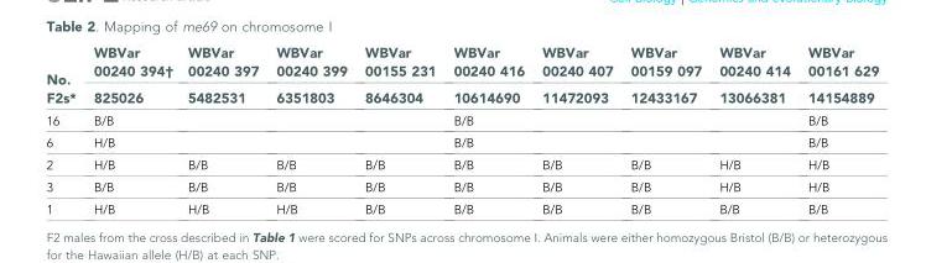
<table><thead><tr><td rowspan="2">No. F2s*</td><td rowspan="2">WBVar 00240 394† 825026</td><td rowspan="2">WBVar 00240 397 5482531</td><td rowspan="2">WBVar 00240 399 6351803</td><td rowspan="2">WBVar 00155 231 8646304</td><td rowspan="2">WBVar 00240 416 10614690</td><td rowspan="2">WBVar 00240 407 11472093</td><td rowspan="2">WBVar 00159 097 12433167</td><td rowspan="2">WBVar 00240 414 13066381</td><td rowspan="2">WBVar 00161 629 14154889</td></tr><tr></tr></thead><tbody><tr><td>16</td><td>B/B</td><td></td><td></td><td></td><td>B/B</td><td></td><td></td><td></td><td>B/B</td></tr><tr><td>6</td><td>H/B</td><td></td><td></td><td></td><td>B/B</td><td></td><td></td><td></td><td>B/B</td></tr><tr><td>2</td><td>H/B</td><td>B/B</td><td>B/B</td><td>B/B</td><td>B/B</td><td>B/B</td><td>B/B</td><td>H/B</td><td>H/B</td></tr><tr><td>3</td><td>B/B</td><td>B/B</td><td>B/B</td><td>B/B</td><td>B/B</td><td>B/B</td><td>B/B</td><td>H/B</td><td>H/B</td></tr><tr><td>1</td><td>H/B</td><td>H/B</td><td>H/B</td><td>B/B</td><td>B/B</td><td>B/B</td><td>B/B</td><td>B/B</td><td>B/B</td></tr></tbody></table>